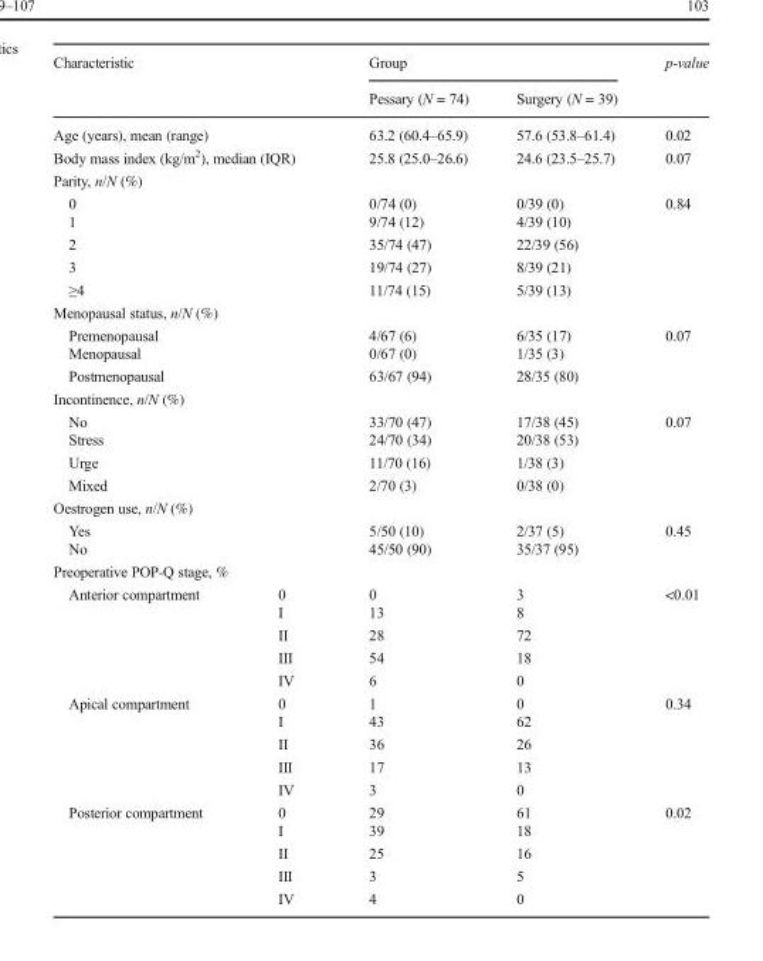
<table><thead><tr><td rowspan="2" colspan="2">Characteristic</td><td colspan="2">Group</td><td rowspan="2">p-value</td></tr><tr><td>Pessary (N = 74)</td><td>Surgery (N = 39)</td></tr></thead><tbody><tr><td colspan="2">Age (years), mean (range)</td><td>63.2 (60.4–65.9)</td><td>57.6 (53.8–61.4)</td><td>0.02</td></tr><tr><td colspan="2">Body mass index (kg/m<sup>2</sup>), median (IQR)</td><td>25.8 (25.0–26.6)</td><td>24.6 (23.5–25.7)</td><td>0.07</td></tr><tr><td colspan="5">Parity, n/N (%)</td></tr><tr><td colspan="2">0</td><td>0/74 (0)</td><td>0/39 (0)</td><td rowspan="5">0.84</td></tr><tr><td colspan="2">1</td><td>9/74 (12)</td><td>4/39 (10)</td></tr><tr><td colspan="2">2</td><td>35/74 (47)</td><td>22/39 (56)</td></tr><tr><td colspan="2">3</td><td>19/74 (27)</td><td>8/39 (21)</td></tr><tr><td colspan="2">≥4</td><td>11/74 (15)</td><td>5/39 (13)</td></tr><tr><td colspan="5">Menopausal status, n/N (%)</td></tr><tr><td colspan="2">Premenopausal</td><td>4/67 (6)</td><td>6/35 (17)</td><td rowspan="3">0.07</td></tr><tr><td colspan="2">Menopausal</td><td>0/67 (0)</td><td>1/35 (3)</td></tr><tr><td colspan="2">Postmenopausal</td><td>63/67 (94)</td><td>28/35 (80)</td></tr><tr><td colspan="5">Incontinence, n/N (%)</td></tr><tr><td colspan="2">No</td><td>33/70 (47)</td><td>17/38 (45)</td><td rowspan="4">0.07</td></tr><tr><td colspan="2">Stress</td><td>24/70 (34)</td><td>20/38 (53)</td></tr><tr><td colspan="2">Urge</td><td>11/70 (16)</td><td>1/38 (3)</td></tr><tr><td colspan="2">Mixed</td><td>2/70 (3)</td><td>0/38 (0)</td></tr><tr><td colspan="5">Oestrogen use, n/N (%)</td></tr><tr><td colspan="2">Yes</td><td>5/50 (10)</td><td>2/37 (5)</td><td rowspan="2">0.45</td></tr><tr><td colspan="2">No</td><td>45/50 (90)</td><td>35/37 (95)</td></tr><tr><td colspan="5">Preoperative POP-Q stage, %</td></tr><tr><td rowspan="5">Anterior compartment</td><td>0</td><td>0</td><td>3</td><td rowspan="5">&lt;0.01</td></tr><tr><td>I</td><td>13</td><td>8</td></tr><tr><td>II</td><td>28</td><td>72</td></tr><tr><td>III</td><td>54</td><td>18</td></tr><tr><td>IV</td><td>6</td><td>0</td></tr><tr><td rowspan="5">Apical compartment</td><td>0</td><td>1</td><td>0</td><td rowspan="5">0.34</td></tr><tr><td>I</td><td>43</td><td>62</td></tr><tr><td>II</td><td>36</td><td>26</td></tr><tr><td>III</td><td>17</td><td>13</td></tr><tr><td>IV</td><td>3</td><td>0</td></tr><tr><td rowspan="5">Posterior compartment</td><td>0</td><td>29</td><td>61</td><td rowspan="5">0.02</td></tr><tr><td>I</td><td>39</td><td>18</td></tr><tr><td>II</td><td>25</td><td>16</td></tr><tr><td>III</td><td>3</td><td>5</td></tr><tr><td>IV</td><td>4</td><td>0</td></tr></tbody></table>